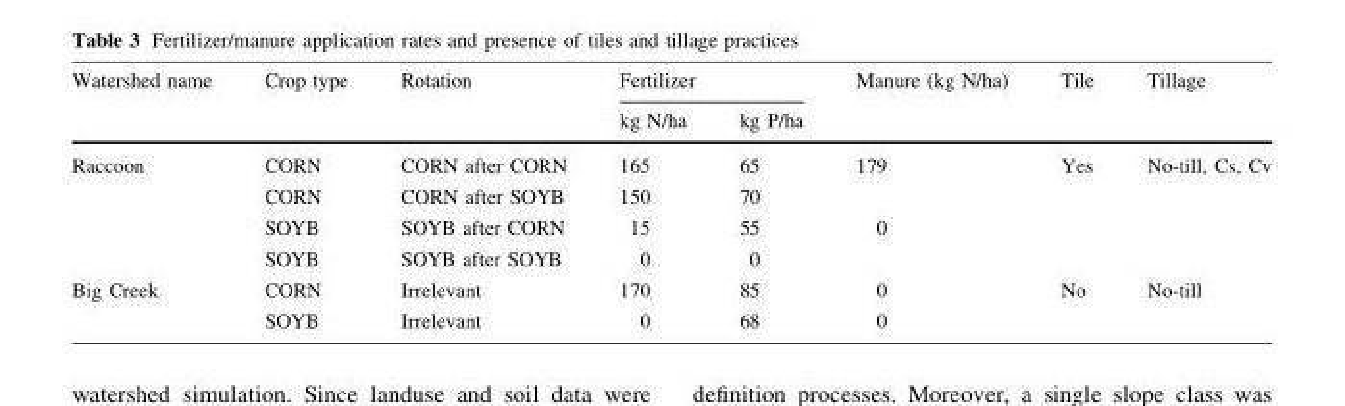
<table><thead><tr><td rowspan="2">Watershed name</td><td rowspan="2">Crop type</td><td rowspan="2">Rotation</td><td colspan="2">Fertilizer</td><td rowspan="2">Manure (kg N/ha)</td><td rowspan="2">Tile</td><td rowspan="2">Tillage</td></tr><tr><td>kg N/ha</td><td>kg P/ha</td></tr></thead><tbody><tr><td rowspan="4">Raccoon</td><td>CORN</td><td>CORN after CORN</td><td>165</td><td>65</td><td rowspan="2">179</td><td rowspan="4">Yes</td><td rowspan="4">No-till, Cs, Cv</td></tr><tr><td>CORN</td><td>CORN after SOYB</td><td>150</td><td>70</td></tr><tr><td>SOYB</td><td>SOYB after CORN</td><td>15</td><td>55</td><td rowspan="2">0</td></tr><tr><td>SOYB</td><td>SOYB after SOYB</td><td>0</td><td>0</td></tr><tr><td rowspan="2">Big Creek</td><td>CORN</td><td>Irrelevant</td><td>170</td><td>85</td><td>0</td><td rowspan="2">No</td><td rowspan="2">No-till</td></tr><tr><td>SOYB</td><td>Irrelevant</td><td>0</td><td>68</td><td>0</td></tr></tbody></table>